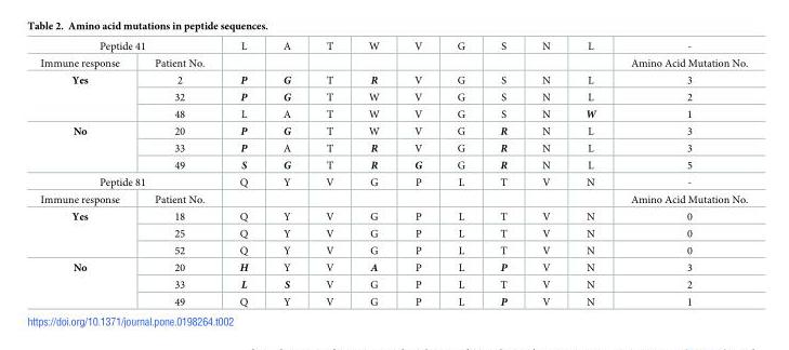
<table><tbody><tr><td colspan="2">Peptide 41</td><td>L</td><td>A</td><td>T</td><td>W</td><td>V</td><td>G</td><td>S</td><td>N</td><td>L</td><td>-</td></tr><tr><td>Immune response</td><td>Patient No.</td><td></td><td></td><td></td><td></td><td></td><td></td><td></td><td></td><td></td><td>Amino Acid Mutation No.</td></tr><tr><td rowspan="3">Yes</td><td>2</td><td>P</td><td>G</td><td>T</td><td>R</td><td>V</td><td>G</td><td>S</td><td>N</td><td>L</td><td>3</td></tr><tr><td>32</td><td>P</td><td>G</td><td>T</td><td>W</td><td>V</td><td>G</td><td>S</td><td>N</td><td>L</td><td>2</td></tr><tr><td>48</td><td>L</td><td>A</td><td>T</td><td>W</td><td>V</td><td>G</td><td>S</td><td>N</td><td>W</td><td>1</td></tr><tr><td rowspan="3">No</td><td>20</td><td>P</td><td>G</td><td>T</td><td>W</td><td>V</td><td>G</td><td>R</td><td>N</td><td>L</td><td>3</td></tr><tr><td>33</td><td>P</td><td>A</td><td>T</td><td>R</td><td>V</td><td>G</td><td>R</td><td>N</td><td>L</td><td>3</td></tr><tr><td>49</td><td>S</td><td>G</td><td>T</td><td>R</td><td>G</td><td>G</td><td>R</td><td>N</td><td>L</td><td>5</td></tr><tr><td colspan="2">Peptide 81</td><td>Q</td><td>Y</td><td>V</td><td>G</td><td>P</td><td>L</td><td>T</td><td>V</td><td>N</td><td>-</td></tr><tr><td>Immune response</td><td>Patient No.</td><td></td><td></td><td></td><td></td><td></td><td></td><td></td><td></td><td></td><td>Amino Acid Mutation No.</td></tr><tr><td rowspan="3">Yes</td><td>18</td><td>Q</td><td>Y</td><td>V</td><td>G</td><td>P</td><td>L</td><td>T</td><td>V</td><td>N</td><td>0</td></tr><tr><td>25</td><td>Q</td><td>Y</td><td>V</td><td>G</td><td>P</td><td>L</td><td>T</td><td>V</td><td>N</td><td>0</td></tr><tr><td>52</td><td>Q</td><td>Y</td><td>V</td><td>G</td><td>P</td><td>L</td><td>T</td><td>V</td><td>N</td><td>0</td></tr><tr><td rowspan="3">No</td><td>20</td><td>H</td><td>Y</td><td>V</td><td>A</td><td>P</td><td>L</td><td>P</td><td>V</td><td>N</td><td>3</td></tr><tr><td>33</td><td>L</td><td>S</td><td>V</td><td>G</td><td>P</td><td>L</td><td>T</td><td>V</td><td>N</td><td>2</td></tr><tr><td>49</td><td>Q</td><td>Y</td><td>V</td><td>G</td><td>P</td><td>L</td><td>P</td><td>V</td><td>N</td><td>1</td></tr></tbody></table>